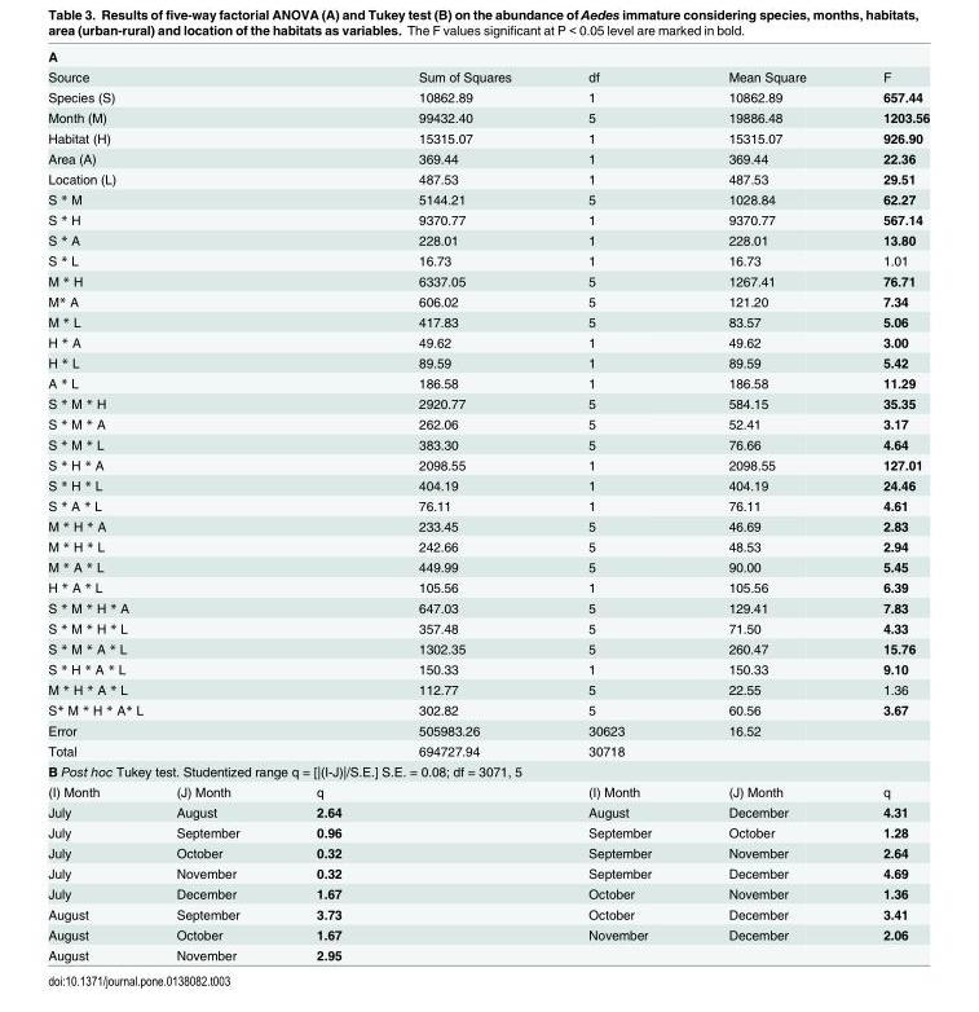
<table><tbody><tr><td colspan="7">A</td></tr><tr><td colspan="3">Source</td><td>Sum of Squares</td><td>df</td><td>Mean Square</td><td>F</td></tr><tr><td colspan="3">Species (S)</td><td>10862.89</td><td>1</td><td>10862.89</td><td>657.44</td></tr><tr><td colspan="3">Month (M)</td><td>99432.40</td><td>5</td><td>19886.48</td><td>1203.56</td></tr><tr><td colspan="3">Habitat (H)</td><td>15315.07</td><td>1</td><td>15315.07</td><td>926.90</td></tr><tr><td colspan="3">Area (A)</td><td>369.44</td><td>1</td><td>369.44</td><td>22.36</td></tr><tr><td colspan="3">Location (L)</td><td>487.53</td><td>1</td><td>487.53</td><td>29.51</td></tr><tr><td colspan="3">S * M</td><td>5144.21</td><td>5</td><td>1028.84</td><td>62.27</td></tr><tr><td colspan="3">S * H</td><td>9370.77</td><td>1</td><td>9370.77</td><td>567.14</td></tr><tr><td colspan="3">S * A</td><td>228.01</td><td>1</td><td>228.01</td><td>13.80</td></tr><tr><td colspan="3">S * L</td><td>16.73</td><td>1</td><td>16.73</td><td>1.01</td></tr><tr><td colspan="3">M * H</td><td>6337.05</td><td>5</td><td>1267.41</td><td>76.71</td></tr><tr><td colspan="3">M* A</td><td>606.02</td><td>5</td><td>121.20</td><td>7.34</td></tr><tr><td colspan="3">M * L</td><td>417.83</td><td>5</td><td>83.57</td><td>5.06</td></tr><tr><td colspan="3">H * A</td><td>49.62</td><td>1</td><td>49.62</td><td>3.00</td></tr><tr><td colspan="3">H * L</td><td>89.59</td><td>1</td><td>89.59</td><td>5.42</td></tr><tr><td colspan="3">A * L</td><td>186.58</td><td>1</td><td>186.58</td><td>11.29</td></tr><tr><td colspan="3">S * M * H</td><td>2920.77</td><td>5</td><td>584.15</td><td>35.35</td></tr><tr><td colspan="3">S * M * A</td><td>262.06</td><td>5</td><td>52.41</td><td>3.17</td></tr><tr><td colspan="3">S * M * L</td><td>383.30</td><td>5</td><td>76.66</td><td>4.64</td></tr><tr><td colspan="3">S * H * A</td><td>2098.55</td><td>1</td><td>2098.55</td><td>127.01</td></tr><tr><td colspan="3">S * H * L</td><td>404.19</td><td>1</td><td>404.19</td><td>24.46</td></tr><tr><td colspan="3">S * A * L</td><td>76.11</td><td>1</td><td>76.11</td><td>4.61</td></tr><tr><td colspan="3">M * H * A</td><td>233.45</td><td>5</td><td>46.69</td><td>2.83</td></tr><tr><td colspan="3">M * H * L</td><td>242.66</td><td>5</td><td>48.53</td><td>2.94</td></tr><tr><td colspan="3">M * A * L</td><td>449.99</td><td>5</td><td>90.00</td><td>5.45</td></tr><tr><td colspan="3">H * A * L</td><td>105.56</td><td>1</td><td>105.56</td><td>6.39</td></tr><tr><td colspan="3">S * M * H * A</td><td>647.03</td><td>5</td><td>129.41</td><td>7.83</td></tr><tr><td colspan="3">S * M * H * L</td><td>357.48</td><td>5</td><td>71.50</td><td>4.33</td></tr><tr><td colspan="3">S * M * A * L</td><td>1302.35</td><td>5</td><td>260.47</td><td>15.76</td></tr><tr><td colspan="3">S * H * A * L</td><td>150.33</td><td>1</td><td>150.33</td><td>9.10</td></tr><tr><td colspan="3">M * H * A * L</td><td>112.77</td><td>5</td><td>22.55</td><td>1.36</td></tr><tr><td colspan="3">S* M * H * A* L</td><td>302.82</td><td>5</td><td>60.56</td><td>3.67</td></tr><tr><td colspan="3">Error</td><td>505983.26</td><td>30623</td><td>16.52</td><td></td></tr><tr><td colspan="3">Total</td><td>694727.94</td><td>30718</td><td></td><td></td></tr><tr><td colspan="7">B Post hoc Tukey test. Studentized range q = [|(I-J)|/S.E.] S.E. = 0.08; df = 3071, 5</td></tr><tr><td>(I) Month</td><td>(J) Month</td><td>q</td><td></td><td>(I) Month</td><td>(J) Month</td><td>q</td></tr><tr><td>July</td><td>August</td><td>2.64</td><td></td><td>August</td><td>December</td><td>4.31</td></tr><tr><td>July</td><td>September</td><td>0.96</td><td></td><td>September</td><td>October</td><td>1.28</td></tr><tr><td>July</td><td>October</td><td>0.32</td><td></td><td>September</td><td>November</td><td>2.64</td></tr><tr><td>July</td><td>November</td><td>0.32</td><td></td><td>September</td><td>December</td><td>4.69</td></tr><tr><td>July</td><td>December</td><td>1.67</td><td></td><td>October</td><td>November</td><td>1.36</td></tr><tr><td>August</td><td>September</td><td>3.73</td><td></td><td>October</td><td>December</td><td>3.41</td></tr><tr><td>August</td><td>October</td><td>1.67</td><td></td><td>November</td><td>December</td><td>2.06</td></tr><tr><td>August</td><td>November</td><td>2.95</td><td></td><td></td><td></td><td></td></tr></tbody></table>